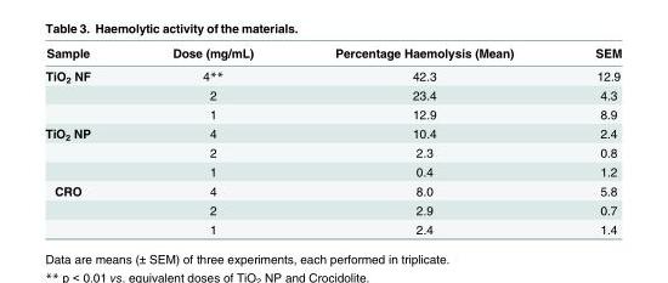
<table><thead><tr><td>Sample</td><td>Dose (mg/mL)</td><td>Percentage Haemolysis (Mean)</td><td>SEM</td></tr></thead><tbody><tr><td rowspan="3">TiO<sub>2</sub> NF</td><td>4**</td><td>42.3</td><td>12.9</td></tr><tr><td>2</td><td>23.4</td><td>4.3</td></tr><tr><td>1</td><td>12.9</td><td>8.9</td></tr><tr><td rowspan="3">TiO<sub>2</sub> NP</td><td>4</td><td>10.4</td><td>2.4</td></tr><tr><td>2</td><td>2.3</td><td>0.8</td></tr><tr><td>1</td><td>0.4</td><td>1.2</td></tr><tr><td rowspan="3">CRO</td><td>4</td><td>8.0</td><td>5.8</td></tr><tr><td>2</td><td>2.9</td><td>0.7</td></tr><tr><td>1</td><td>2.4</td><td>1.4</td></tr></tbody></table>